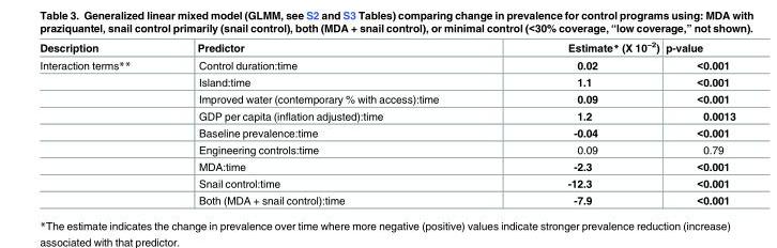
<table><thead><tr><td>Description</td><td>Predictor</td><td>Estimate* (X 10<sup>−2</sup>)</td><td>p-value</td></tr></thead><tbody><tr><td rowspan="9">Interaction terms**</td><td>Control duration:time</td><td>0.02</td><td>&lt;0.001</td></tr><tr><td>Island:time</td><td>1.1</td><td>&lt;0.001</td></tr><tr><td>Improved water (contemporary % with access):time</td><td>0.09</td><td>&lt;0.001</td></tr><tr><td>GDP per capita (inflation adjusted):time</td><td>1.2</td><td>0.0013</td></tr><tr><td>Baseline prevalence:time</td><td>-0.04</td><td>&lt;0.001</td></tr><tr><td>Engineering controls:time</td><td>0.09</td><td>0.79</td></tr><tr><td>MDA:time</td><td>-2.3</td><td>&lt;0.001</td></tr><tr><td>Snail control:time</td><td>-12.3</td><td>&lt;0.001</td></tr><tr><td>Both (MDA + snail control):time</td><td>-7.9</td><td>&lt;0.001</td></tr></tbody></table>